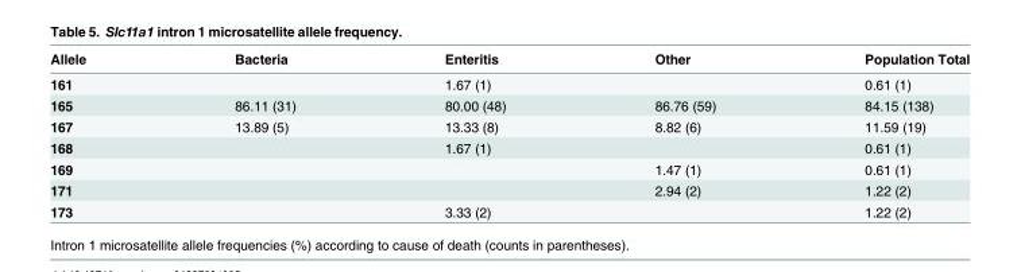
<table><thead><tr><td>Allele</td><td>Bacteria</td><td>Enteritis</td><td>Other</td><td>Population Total</td></tr></thead><tbody><tr><td>161</td><td></td><td>1.67 (1)</td><td></td><td>0.61 (1)</td></tr><tr><td>165</td><td>86.11 (31)</td><td>80.00 (48)</td><td>86.76 (59)</td><td>84.15 (138)</td></tr><tr><td>167</td><td>13.89 (5)</td><td>13.33 (8)</td><td>8.82 (6)</td><td>11.59 (19)</td></tr><tr><td>168</td><td></td><td>1.67 (1)</td><td></td><td>0.61 (1)</td></tr><tr><td>169</td><td></td><td></td><td>1.47 (1)</td><td>0.61 (1)</td></tr><tr><td>171</td><td></td><td></td><td>2.94 (2)</td><td>1.22 (2)</td></tr><tr><td>173</td><td></td><td>3.33 (2)</td><td></td><td>1.22 (2)</td></tr></tbody></table>